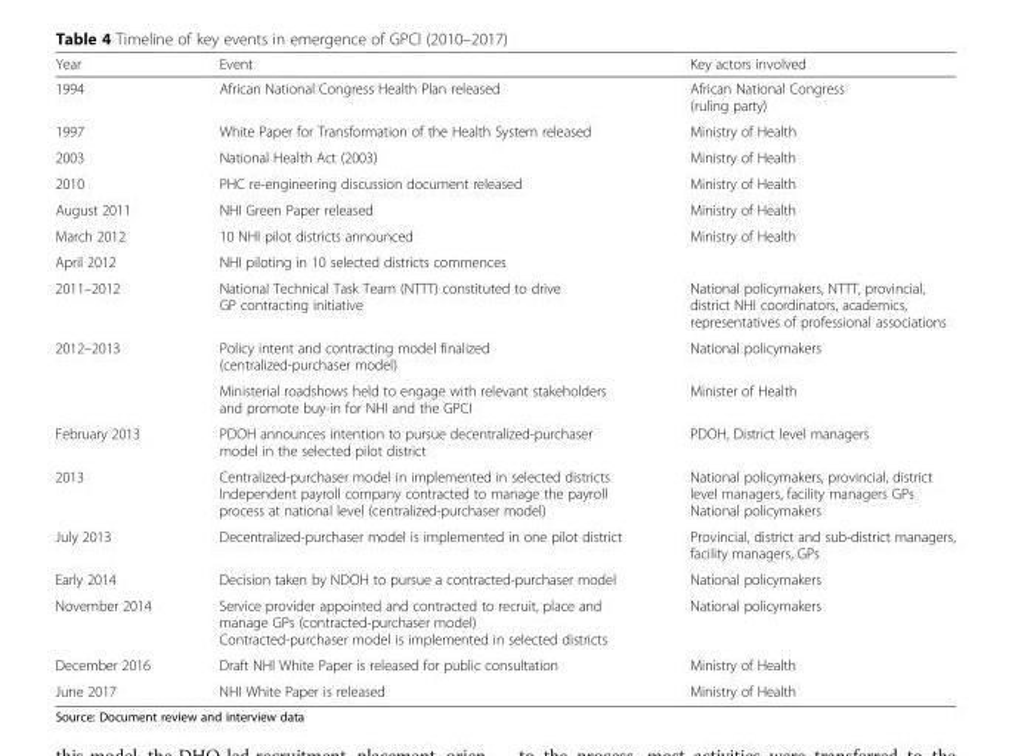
<table><thead><tr><td>Year</td><td>Event</td><td>Key actors involved</td></tr></thead><tbody><tr><td>1994</td><td>African National Congress Health Plan released</td><td>African National Congress (ruling party)</td></tr><tr><td>1997</td><td>White Paper for Transformation of the Health System released</td><td>Ministry of Health</td></tr><tr><td>2003</td><td>National Health Act (2003)</td><td>Ministry of Health</td></tr><tr><td>2010</td><td>PHC re-engineering discussion document released</td><td>Ministry of Health</td></tr><tr><td>August 2011</td><td>NHI Green Paper released</td><td>Ministry of Health</td></tr><tr><td>March 2012</td><td>10 NHI pilot districts announced</td><td>Ministry of Health</td></tr><tr><td>April 2012</td><td>NHI piloting in 10 selected districts commences</td><td></td></tr><tr><td>2011–2012</td><td>National Technical Task Team (NTTT) constituted to drive GP contracting initiative</td><td>National policymakers, NTTT, provincial, district NHI coordinators, academics, representatives of professional associations</td></tr><tr><td rowspan="2">2012–2013</td><td>Policy intent and contracting model finalized (centralized-purchaser model)</td><td>National policymakers</td></tr><tr><td>Ministerial roadshows held to engage with relevant stakeholders and promote buy-in for NHI and the GPCI</td><td>Minister of Health</td></tr><tr><td>February 2013</td><td>PDOH announces intention to pursue decentralized-purchaser model in the selected pilot district</td><td>PDOH, District level managers</td></tr><tr><td>2013</td><td>Centralized-purchaser model in implemented in selected districts Independent payroll company contracted to manage the payroll process at national level (centralized-purchaser model)</td><td>National policymakers, provincial, district level managers, facility managers GPs National policymakers</td></tr><tr><td>July 2013</td><td>Decentralized-purchaser model is implemented in one pilot district</td><td>Provincial, district and sub-district managers, facility managers, GPs</td></tr><tr><td>Early 2014</td><td>Decision taken by NDOH to pursue a contracted-purchaser model</td><td>National policymakers</td></tr><tr><td>November 2014</td><td>Service provider appointed and contracted to recruit, place and manage GPs (contracted-purchaser model) Contracted-purchaser model is implemented in selected districts</td><td>National policymakers</td></tr><tr><td>December 2016</td><td>Draft NHI White Paper is released for public consultation</td><td>Ministry of Health</td></tr><tr><td>June 2017</td><td>NHI White Paper is released</td><td>Ministry of Health</td></tr></tbody></table>